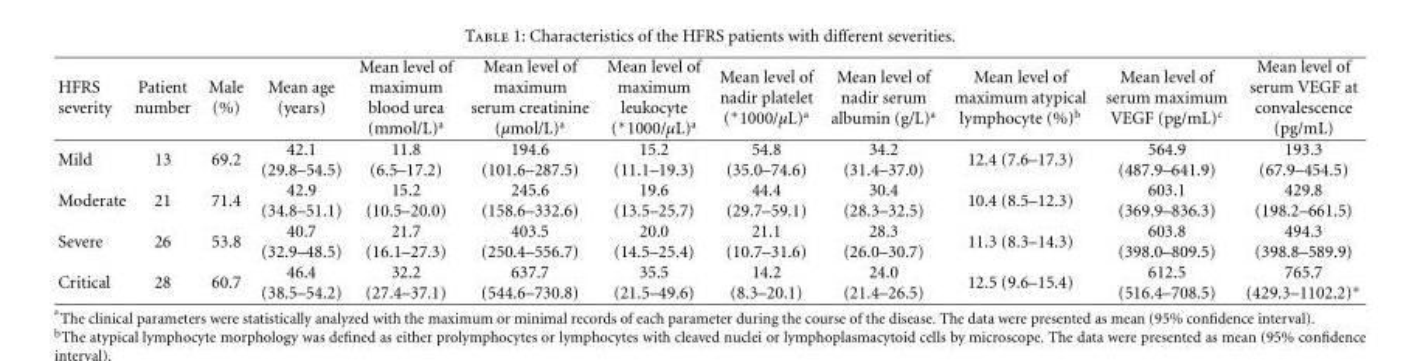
<table><thead><tr><td>HFRS severity</td><td>Patient number</td><td>Male (%)</td><td>Mean age (years)</td><td>Mean level of maximum blood urea (mmol/L)<sup>a</sup></td><td>Mean level of maximum serum creatinine (μmol/L)<sup>a</sup></td><td>Mean level of maximum leukocyte (∗1000/μL)a</td><td>Mean level of nadir platelet (∗1000/μL)a</td><td>Mean level of nadir serum albumin (g/L)<sup>a</sup></td><td>Mean level of maximum atypical lymphocyte (%)<sup>b</sup></td><td>Mean level of serum maximum VEGF (pg/mL)<sup>c</sup></td><td>Mean level of serum VEGF at convalescence (pg/mL)</td></tr></thead><tbody><tr><td>Mild</td><td>13</td><td>69.2</td><td>42.1 (29.8–54.5)</td><td>11.8 (6.5–17.2)</td><td>194.6 (101.6–287.5)</td><td>15.2 (11.1–19.3)</td><td>54.8 (35.0–74.6)</td><td>34.2 (31.4–37.0)</td><td>12.4 (7.6–17.3)</td><td>564.9 (487.9–641.9)</td><td>193.3 (67.9–454.5)</td></tr><tr><td>Moderate</td><td>21</td><td>71.4</td><td>42.9 (34.8–51.1)</td><td>15.2 (10.5–20.0)</td><td>245.6 (158.6–332.6)</td><td>19.6 (13.5–25.7)</td><td>44.4 (29.7–59.1)</td><td>30.4 (28.3–32.5)</td><td>10.4 (8.5–12.3)</td><td>603.1 (369.9–836.3)</td><td>429.8 (198.2–661.5)</td></tr><tr><td>Severe</td><td>26</td><td>53.8</td><td>40.7 (32.9–48.5)</td><td>21.7 (16.1–27.3)</td><td>403.5 (250.4–556.7)</td><td>20.0 (14.5–25.4)</td><td>21.1 (10.7–31.6)</td><td>28.3 (26.0–30.7)</td><td>11.3 (8.3–14.3)</td><td>603.8 (398.0–809.5)</td><td>494.3 (398.8–589.9)</td></tr><tr><td>Critical</td><td>28</td><td>60.7</td><td>46.4 (38.5–54.2)</td><td>32.2 (27.4–37.1)</td><td>637.7 (544.6–730.8)</td><td>35.5 (21.5–49.6)</td><td>14.2 (8.3–20.1)</td><td>24.0 (21.4–26.5)</td><td>12.5 (9.6–15.4)</td><td>612.5 (516.4–708.5)</td><td>765.7 (429.3–1102.2)∗</td></tr></tbody></table>